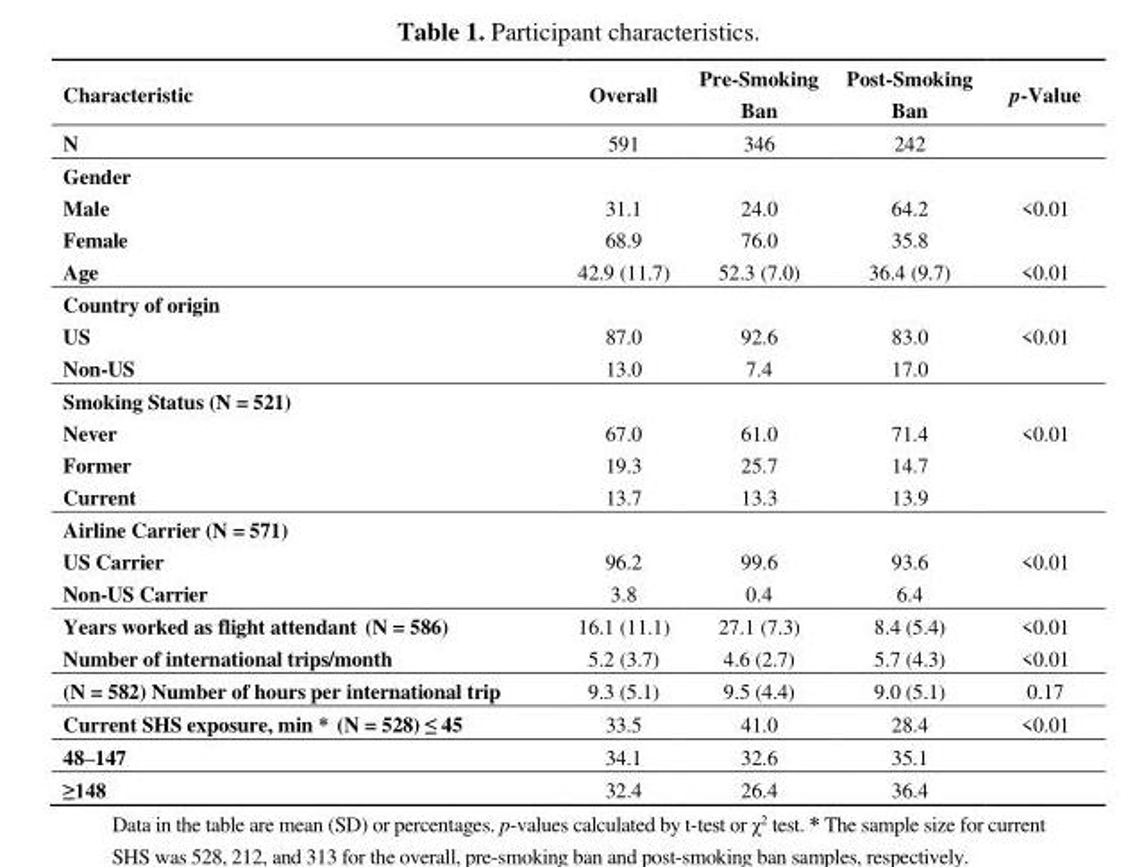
<table><thead><tr><td>Characteristic</td><td>Overall</td><td>Pre-Smoking Ban</td><td>Post-Smoking Ban</td><td>p-Value</td></tr></thead><tbody><tr><td>N</td><td>591</td><td>346</td><td>242</td><td></td></tr><tr><td colspan="5">Gender</td></tr><tr><td>Male</td><td>31.1</td><td>24.0</td><td>64.2</td><td>&lt;0.01</td></tr><tr><td>Female</td><td>68.9</td><td>76.0</td><td>35.8</td><td></td></tr><tr><td>Age</td><td>42.9 (11.7)</td><td>52.3 (7.0)</td><td>36.4 (9.7)</td><td>&lt;0.01</td></tr><tr><td colspan="5">Country of origin</td></tr><tr><td>US</td><td>87.0</td><td>92.6</td><td>83.0</td><td>&lt;0.01</td></tr><tr><td>Non-US</td><td>13.0</td><td>7.4</td><td>17.0</td><td></td></tr><tr><td colspan="5">Smoking Status (N = 521)</td></tr><tr><td>Never</td><td>67.0</td><td>61.0</td><td>71.4</td><td>&lt;0.01</td></tr><tr><td>Former</td><td>19.3</td><td>25.7</td><td>14.7</td><td></td></tr><tr><td>Current</td><td>13.7</td><td>13.3</td><td>13.9</td><td></td></tr><tr><td colspan="5">Airline Carrier (N = 571)</td></tr><tr><td>US Carrier</td><td>96.2</td><td>99.6</td><td>93.6</td><td>&lt;0.01</td></tr><tr><td>Non-US Carrier</td><td>3.8</td><td>0.4</td><td>6.4</td><td></td></tr><tr><td>Years worked as flight attendant (N = 586)</td><td>16.1 (11.1)</td><td>27.1 (7.3)</td><td>8.4 (5.4)</td><td>&lt;0.01</td></tr><tr><td>Number of international trips/month</td><td>5.2 (3.7)</td><td>4.6 (2.7)</td><td>5.7 (4.3)</td><td>&lt;0.01</td></tr><tr><td>(N = 582) Number of hours per international trip</td><td>9.3 (5.1)</td><td>9.5 (4.4)</td><td>9.0 (5.1)</td><td>0.17</td></tr><tr><td>Current SHS exposure, min * (N = 528) ≤ 45</td><td>33.5</td><td>41.0</td><td>28.4</td><td>&lt;0.01</td></tr><tr><td>48–147</td><td>34.1</td><td>32.6</td><td>35.1</td><td></td></tr><tr><td>≥148</td><td>32.4</td><td>26.4</td><td>36.4</td><td></td></tr></tbody></table>